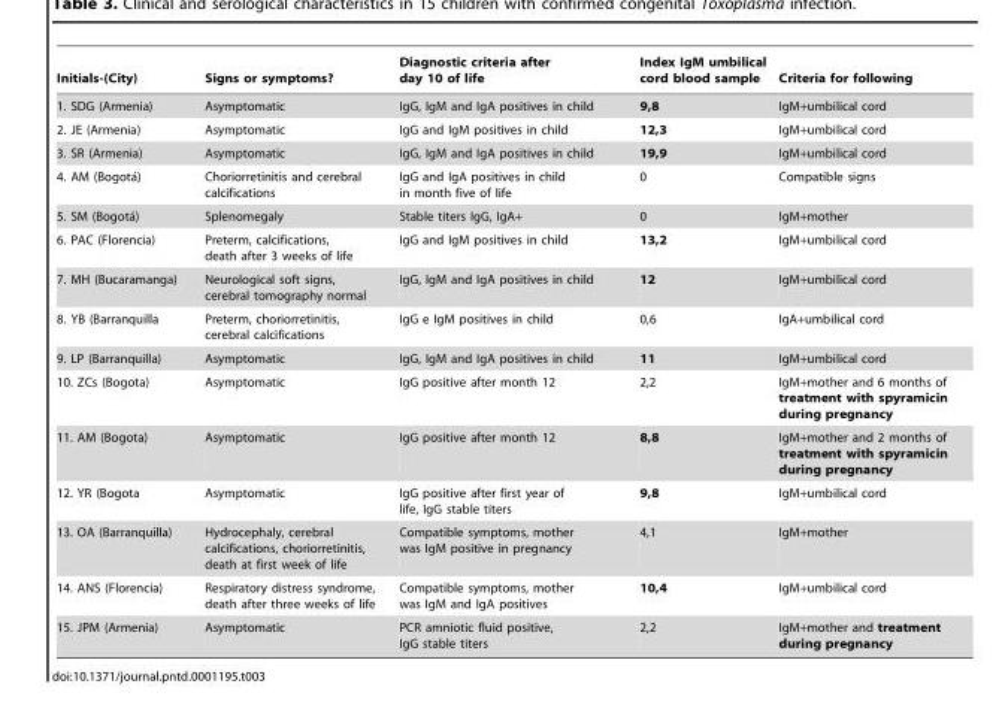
<table><thead><tr><td>Initials-(City)</td><td>Signs or symptoms?</td><td>Diagnostic criteria after day 10 of life</td><td>Index IgM umbilical cord blood sample</td><td>Criteria for following</td></tr></thead><tbody><tr><td>1. SDG (Armenia)</td><td>Asymptomatic</td><td>IgG, IgM and IgA positives in child</td><td>9,8</td><td>IgM+umbilical cord</td></tr><tr><td>2. JE (Armenia)</td><td>Asymptomatic</td><td>IgG and IgM positives in child</td><td>12,3</td><td>IgM+umbilical cord</td></tr><tr><td>3. SR (Armenia)</td><td>Asymptomatic</td><td>IgG, IgM and IgA positives in child</td><td>19,9</td><td>IgM+umbilical cord</td></tr><tr><td>4. AM (Bogota´)</td><td>Choriorretinitis and cerebral calcifications</td><td>IgG and IgA positives in child in month five of life</td><td>0</td><td>Compatible signs</td></tr><tr><td>5. SM (Bogota´)</td><td>Splenomegaly</td><td>Stable titers IgG, IgA+</td><td>0</td><td>IgM+mother</td></tr><tr><td>6. PAC (Florencia)</td><td>Preterm, calcifications, death after 3 weeks of life</td><td>IgG and IgM positives in child</td><td>13,2</td><td>IgM+umbilical cord</td></tr><tr><td>7. MH (Bucaramanga)</td><td>Neurological soft signs, cerebral tomography normal</td><td>IgG, IgM and IgA positives in child</td><td>12</td><td>IgM+umbilical cord</td></tr><tr><td>8. YB (Barranquilla</td><td>Preterm, choriorretinitis, cerebral calcifications</td><td>IgG e IgM positives in child</td><td>0,6</td><td>IgA+umbilical cord</td></tr><tr><td>9. LP (Barranquilla)</td><td>Asymptomatic</td><td>IgG, IgM and IgA positives in child</td><td>11</td><td>IgM+umbilical cord</td></tr><tr><td>10. ZCs (Bogota)</td><td>Asymptomatic</td><td>IgG positive after month 12</td><td>2,2</td><td>IgM+mother and 6 months of treatment with spyramicin during pregnancy</td></tr><tr><td>11. AM (Bogota)</td><td>Asymptomatic</td><td>IgG positive after month 12</td><td>8,8</td><td>IgM+mother and 2 months of treatment with spyramicin during pregnancy</td></tr><tr><td>12. YR (Bogota</td><td>Asymptomatic</td><td>IgG positive after first year of life, IgG stable titers</td><td>9,8</td><td>IgM+umbilical cord</td></tr><tr><td>13. OA (Barranquilla)</td><td>Hydrocephaly, cerebral calcifications, choriorretinitis, death at first week of life</td><td>Compatible symptoms, mother was IgM positive in pregnancy</td><td>4,1</td><td>IgM+mother</td></tr><tr><td>14. ANS (Florencia)</td><td>Respiratory distress syndrome, death after three weeks of life</td><td>Compatible symptoms, mother was IgM and IgA positives</td><td>10,4</td><td>IgM+umbilical cord</td></tr><tr><td>15. JPM (Armenia)</td><td>Asymptomatic</td><td>PCR amniotic fluid positive, IgG stable titers</td><td>2,2</td><td>IgM+mother and treatment during pregnancy</td></tr></tbody></table>